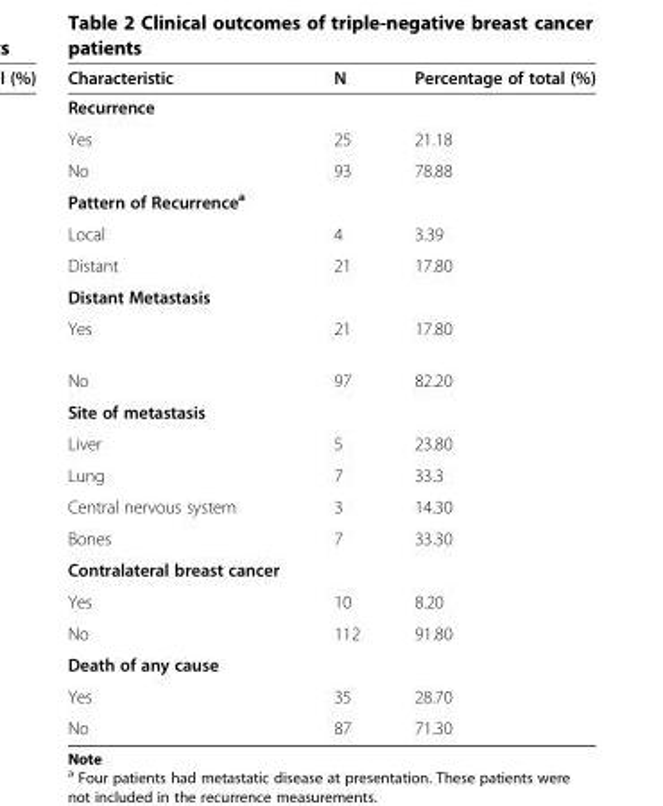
<table><thead><tr><td>Characteristic</td><td>N</td><td>Percentage of total (%)</td></tr></thead><tbody><tr><td colspan="3">Recurrence</td></tr><tr><td>Yes</td><td>25</td><td>21.18</td></tr><tr><td>No</td><td>93</td><td>78.88</td></tr><tr><td colspan="3">Pattern of Recurrence<sup>a</sup></td></tr><tr><td>Local</td><td>4</td><td>3.39</td></tr><tr><td>Distant</td><td>21</td><td>17.80</td></tr><tr><td colspan="3">Distant Metastasis</td></tr><tr><td>Yes</td><td>21</td><td>17.80</td></tr><tr><td>No</td><td>97</td><td>82.20</td></tr><tr><td colspan="3">Site of metastasis</td></tr><tr><td>Liver</td><td>5</td><td>23.80</td></tr><tr><td>Lung</td><td>7</td><td>33.3</td></tr><tr><td>Central nervous system</td><td>3</td><td>14.30</td></tr><tr><td>Bones</td><td>7</td><td>33.30</td></tr><tr><td colspan="3">Contralateral breast cancer</td></tr><tr><td>Yes</td><td>10</td><td>8.20</td></tr><tr><td>No</td><td>112</td><td>91.80</td></tr><tr><td colspan="3">Death of any cause</td></tr><tr><td>Yes</td><td>35</td><td>28.70</td></tr><tr><td>No</td><td>87</td><td>71.30</td></tr></tbody></table>